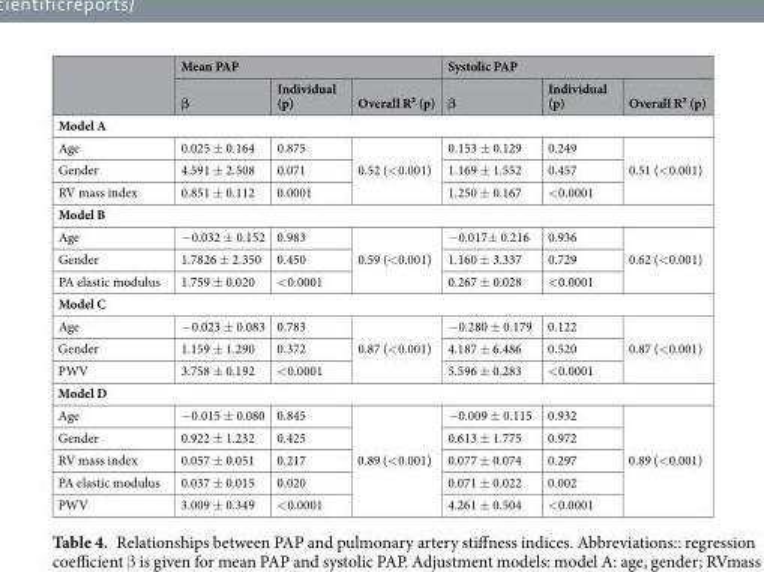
<table><thead><tr><td rowspan="2"></td><td colspan="3">Mean PAP</td><td colspan="3">Systolic PAP</td></tr><tr><td>β</td><td>Individual (p)</td><td>Overall R² (p)</td><td>β</td><td>Individual (p)</td><td>Overall R² (p)</td></tr></thead><tbody><tr><td colspan="7">Model A</td></tr><tr><td>Age</td><td>0.025 ± 0.164</td><td>0.875</td><td rowspan="3">0.52 (&lt;0.001)</td><td>0.153 ± 0.129</td><td>0.249</td><td rowspan="3">0.51 (&lt;0.001)</td></tr><tr><td>Gender</td><td>4.591 ± 2.508</td><td>0.071</td><td>1.169 ± 1.552</td><td>0.457</td></tr><tr><td>RV mass index</td><td>0.851 ± 0.112</td><td>0.0001</td><td>1.250 ± 0.167</td><td>&lt;0.0001</td></tr><tr><td colspan="7">Model B</td></tr><tr><td>Age</td><td>−0.032 ± 0.152</td><td>0.983</td><td rowspan="3">0.59 (&lt;0.001)</td><td>−0.017± 0.216</td><td>0.936</td><td rowspan="3">0.62 (&lt;0.001)</td></tr><tr><td>Gender</td><td>1.7826 ± 2.350</td><td>0.450</td><td>1.160 ± 3.337</td><td>0.729</td></tr><tr><td>PA elastic modulus</td><td>1.759 ± 0.020</td><td>&lt;0.0001</td><td>0.267 ± 0.028</td><td>&lt;0.0001</td></tr><tr><td colspan="7">Model C</td></tr><tr><td>Age</td><td>−0.023 ± 0.083</td><td>0.783</td><td rowspan="3">0.87 (&lt;0.001)</td><td>−0.280 ± 0.179</td><td>0.122</td><td rowspan="3">0.87 (&lt;0.001)</td></tr><tr><td>Gender</td><td>1.159 ± 1.290</td><td>0.372</td><td>4.187 ± 6.486</td><td>0.520</td></tr><tr><td>PWV</td><td>3.758 ± 0.192</td><td>&lt;0.0001</td><td>5.596 ± 0.283</td><td>&lt;0.0001</td></tr><tr><td colspan="7">Model D</td></tr><tr><td>Age</td><td>−0.015 ± 0.080</td><td>0.845</td><td rowspan="5">0.89 (&lt;0.001)</td><td>−0.009 ± 0.115</td><td>0.932</td><td rowspan="5">0.89 (&lt;0.001)</td></tr><tr><td>Gender</td><td>0.922 ± 1.232</td><td>0.425</td><td>0.613 ± 1.775</td><td>0.972</td></tr><tr><td>RV mass index</td><td>0.057 ± 0.051</td><td>0.217</td><td>0.077 ± 0.074</td><td>0.297</td></tr><tr><td>PA elastic modulus</td><td>0.037 ± 0.015</td><td>0.020</td><td>0.071 ± 0.022</td><td>0.002</td></tr><tr><td>PWV</td><td>3.009 ± 0.349</td><td>&lt;0.0001</td><td>4.261 ± 0.504</td><td>&lt;0.0001</td></tr></tbody></table>